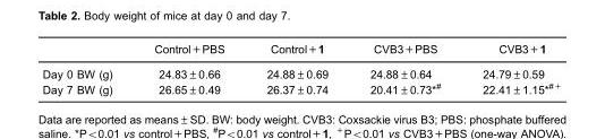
<table><thead><tr><td></td><td>Control+PBS</td><td>Control+1</td><td>CVB3+PBS</td><td>CVB3+1</td></tr></thead><tbody><tr><td>Day 0 BW (g)</td><td>24.83±0.66</td><td>24.88±0.69</td><td>24.88±0.64</td><td>24.79±0.59</td></tr><tr><td>Day 7 BW (g)</td><td>26.65±0.49</td><td>26.37±0.74</td><td>20.41±0.73*<sup>#</sup></td><td>22.41±1.15*<sup>#+</sup></td></tr></tbody></table>